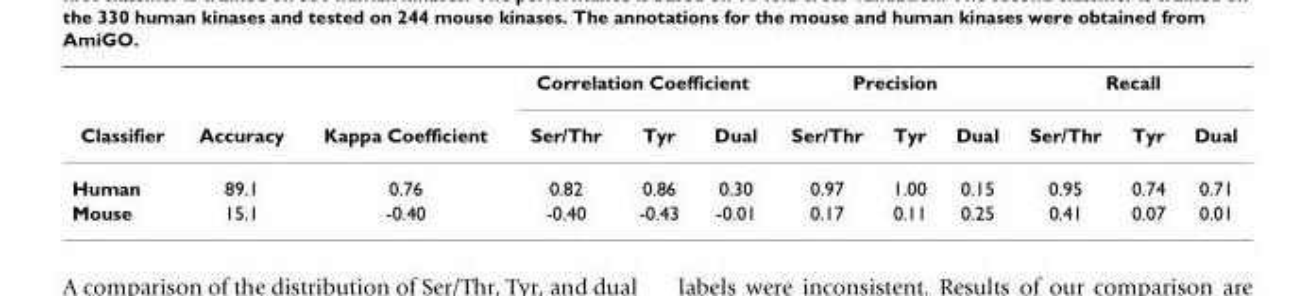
<table><thead><tr><td rowspan="2">Classifier</td><td rowspan="2">Accuracy</td><td rowspan="2">Kappa Coefficient</td><td colspan="3">Correlation Coefficient</td><td colspan="3">Precision</td><td colspan="3">Recall</td></tr><tr><td>Ser/Thr</td><td>Tyr</td><td>Dual</td><td>Ser/Thr</td><td>Tyr</td><td>Dual</td><td>Ser/Thr</td><td>Tyr</td><td>Dual</td></tr></thead><tbody><tr><td>Human</td><td>89.1</td><td>0.76</td><td>0.82</td><td>0.86</td><td>0.30</td><td>0.97</td><td>1.00</td><td>0.15</td><td>0.95</td><td>0.74</td><td>0.71</td></tr><tr><td>Mouse</td><td>15.1</td><td>-0.40</td><td>-0.40</td><td>-0.43</td><td>-0.01</td><td>0.17</td><td>0.11</td><td>0.25</td><td>0.41</td><td>0.07</td><td>0.01</td></tr></tbody></table>